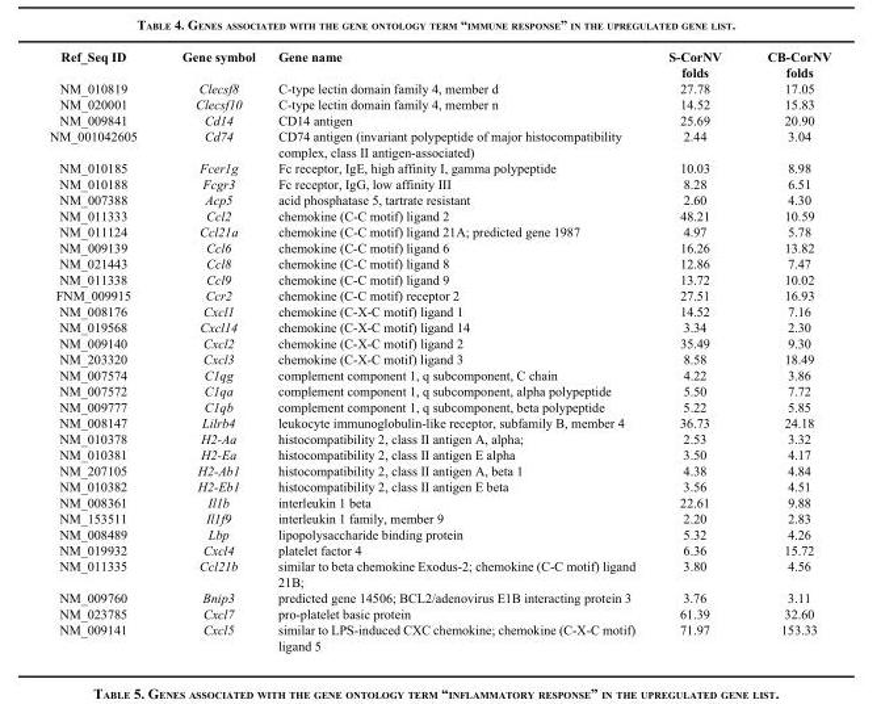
<table><thead><tr><td>Ref_Seq ID</td><td>Gene symbol</td><td>Gene name</td><td>S-CorNV folds</td><td>CB-CorNV folds</td></tr></thead><tbody><tr><td>NM_010819</td><td>Clecsf8</td><td>C-type lectin domain family 4, member d</td><td>27.78</td><td>17.05</td></tr><tr><td>NM_020001</td><td>Clecsf10</td><td>C-type lectin domain family 4, member n</td><td>14.52</td><td>15.83</td></tr><tr><td>NM_009841</td><td>Cd14</td><td>CD14 antigen</td><td>25.69</td><td>20.90</td></tr><tr><td>NM_001042605</td><td>Cd74</td><td>CD74 antigen (invariant polypeptide of major histocompatibility complex, class II antigen-associated)</td><td>2.44</td><td>3.04</td></tr><tr><td>NM_010185</td><td>Fcer1g</td><td>Fc receptor, IgE, high affinity I, gamma polypeptide</td><td>10.03</td><td>8.98</td></tr><tr><td>NM_010188</td><td>Fcgr3</td><td>Fc receptor, IgG, low affinity III</td><td>8.28</td><td>6.51</td></tr><tr><td>NM_007388</td><td>Acp5</td><td>acid phosphatase 5, tartrate resistant</td><td>2.60</td><td>4.30</td></tr><tr><td>NM_011333</td><td>Ccl2</td><td>chemokine (C-C motif) ligand 2</td><td>48.21</td><td>10.59</td></tr><tr><td>NM_011124</td><td>Ccl21a</td><td>chemokine (C-C motif) ligand 21A; predicted gene 1987</td><td>4.97</td><td>5.78</td></tr><tr><td>NM_009139</td><td>Ccl6</td><td>chemokine (C-C motif) ligand 6</td><td>16.26</td><td>13.82</td></tr><tr><td>NM_021443</td><td>Ccl8</td><td>chemokine (C-C motif) ligand 8</td><td>12.86</td><td>7.47</td></tr><tr><td>NM_011338</td><td>Ccl9</td><td>chemokine (C-C motif) ligand 9</td><td>13.72</td><td>10.02</td></tr><tr><td>FNM_009915</td><td>Ccr2</td><td>chemokine (C-C motif) receptor 2</td><td>27.51</td><td>16.93</td></tr><tr><td>NM_008176</td><td>Cxcl1</td><td>chemokine (C-X-C motif) ligand 1</td><td>14.52</td><td>7.16</td></tr><tr><td>NM_019568</td><td>Cxcl14</td><td>chemokine (C-X-C motif) ligand 14</td><td>3.34</td><td>2.30</td></tr><tr><td>NM_009140</td><td>Cxcl2</td><td>chemokine (C-X-C motif) ligand 2</td><td>35.49</td><td>9.30</td></tr><tr><td>NM_203320</td><td>Cxcl3</td><td>chemokine (C-X-C motif) ligand 3</td><td>8.58</td><td>18.49</td></tr><tr><td>NM_007574</td><td>C1qg</td><td>complement component 1, q subcomponent, C chain</td><td>4.22</td><td>3.86</td></tr><tr><td>NM_007572</td><td>C1qa</td><td>complement component 1, q subcomponent, alpha polypeptide</td><td>5.50</td><td>7.72</td></tr><tr><td>NM_009777</td><td>C1qb</td><td>complement component 1, q subcomponent, beta polypeptide</td><td>5.22</td><td>5.85</td></tr><tr><td>NM_008147</td><td>Lilrb4</td><td>leukocyte immunoglobulin-like receptor, subfamily B, member 4</td><td>36.73</td><td>24.18</td></tr><tr><td>NM_010378</td><td>H2-Aa</td><td>histocompatibility 2, class II antigen A, alpha;</td><td>2.53</td><td>3.32</td></tr><tr><td>NM_010381</td><td>H2-Ea</td><td>histocompatibility 2, class II antigen E alpha</td><td>3.50</td><td>4.17</td></tr><tr><td>NM_207105</td><td>H2-Ab1</td><td>histocompatibility 2, class II antigen A, beta 1</td><td>4.38</td><td>4.84</td></tr><tr><td>NM_010382</td><td>H2-Eb1</td><td>histocompatibility 2, class II antigen E beta</td><td>3.56</td><td>4.51</td></tr><tr><td>NM_008361</td><td>Il1b</td><td>interleukin 1 beta</td><td>22.61</td><td>9.88</td></tr><tr><td>NM_153511</td><td>Il1f9</td><td>interleukin 1 family, member 9</td><td>2.20</td><td>2.83</td></tr><tr><td>NM_008489</td><td>Lbp</td><td>lipopolysaccharide binding protein</td><td>5.32</td><td>4.26</td></tr><tr><td>NM_019932</td><td>Cxcl4</td><td>platelet factor 4</td><td>6.36</td><td>15.72</td></tr><tr><td>NM_011335</td><td>Ccl21b</td><td>similar to beta chemokine Exodus-2; chemokine (C-C motif) ligand 21B;</td><td>3.80</td><td>4.56</td></tr><tr><td>NM_009760</td><td>Bnip3</td><td>predicted gene 14506; BCL2/adenovirus E1B interacting protein 3</td><td>3.76</td><td>3.11</td></tr><tr><td>NM_023785</td><td>Cxcl7</td><td>pro-platelet basic protein</td><td>61.39</td><td>32.60</td></tr><tr><td>NM_009141</td><td>Cxcl5</td><td>similar to LPS-induced CXC chemokine; chemokine (C-X-C motif) ligand 5</td><td>71.97</td><td>153.33</td></tr></tbody></table>